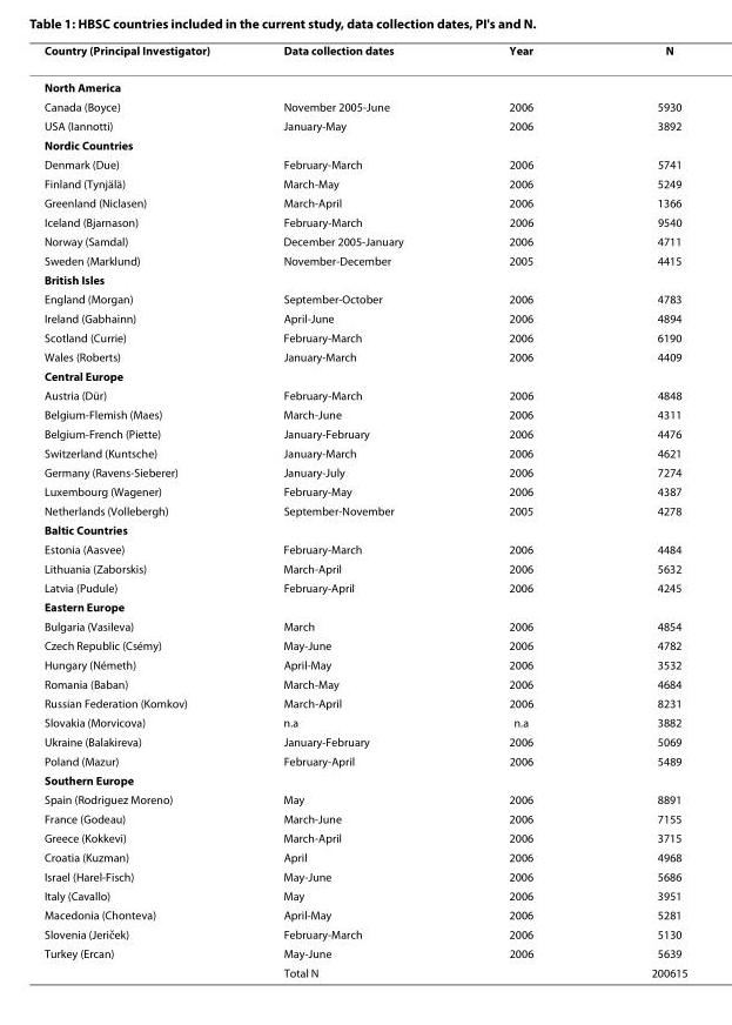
<table><thead><tr><td>Country (Principal Investigator)</td><td>Data collection dates</td><td>Year</td><td>N</td></tr></thead><tbody><tr><td colspan="4">North America</td></tr><tr><td>Canada (Boyce)</td><td>November 2005-June</td><td>2006</td><td>5930</td></tr><tr><td>USA (Iannotti)</td><td>January-May</td><td>2006</td><td>3892</td></tr><tr><td colspan="4">Nordic Countries</td></tr><tr><td>Denmark (Due)</td><td>February-March</td><td>2006</td><td>5741</td></tr><tr><td>Finland (Tynjälä)</td><td>March-May</td><td>2006</td><td>5249</td></tr><tr><td>Greenland (Niclasen)</td><td>March-April</td><td>2006</td><td>1366</td></tr><tr><td>Iceland (Bjarnason)</td><td>February-March</td><td>2006</td><td>9540</td></tr><tr><td>Norway (Samdal)</td><td>December 2005-January</td><td>2006</td><td>4711</td></tr><tr><td>Sweden (Marklund)</td><td>November-December</td><td>2005</td><td>4415</td></tr><tr><td colspan="4">British Isles</td></tr><tr><td>England (Morgan)</td><td>September-October</td><td>2006</td><td>4783</td></tr><tr><td>Ireland (Gabhainn)</td><td>April-June</td><td>2006</td><td>4894</td></tr><tr><td>Scotland (Currie)</td><td>February-March</td><td>2006</td><td>6190</td></tr><tr><td>Wales (Roberts)</td><td>January-March</td><td>2006</td><td>4409</td></tr><tr><td colspan="4">Central Europe</td></tr><tr><td>Austria (Dür)</td><td>February-March</td><td>2006</td><td>4848</td></tr><tr><td>Belgium-Flemish (Maes)</td><td>March-June</td><td>2006</td><td>4311</td></tr><tr><td>Belgium-French (Piette)</td><td>January-February</td><td>2006</td><td>4476</td></tr><tr><td>Switzerland (Kuntsche)</td><td>January-March</td><td>2006</td><td>4621</td></tr><tr><td>Germany (Ravens-Sieberer)</td><td>January-July</td><td>2006</td><td>7274</td></tr><tr><td>Luxembourg (Wagener)</td><td>February-May</td><td>2006</td><td>4387</td></tr><tr><td>Netherlands (Vollebergh)</td><td>September-November</td><td>2005</td><td>4278</td></tr><tr><td colspan="4">Baltic Countries</td></tr><tr><td>Estonia (Aasvee)</td><td>February-March</td><td>2006</td><td>4484</td></tr><tr><td>Lithuania (Zaborskis)</td><td>March-April</td><td>2006</td><td>5632</td></tr><tr><td>Latvia (Pudule)</td><td>February-April</td><td>2006</td><td>4245</td></tr><tr><td colspan="4">Eastern Europe</td></tr><tr><td>Bulgaria (Vasileva)</td><td>March</td><td>2006</td><td>4854</td></tr><tr><td>Czech Republic (Csémy)</td><td>May-June</td><td>2006</td><td>4782</td></tr><tr><td>Hungary (Németh)</td><td>April-May</td><td>2006</td><td>3532</td></tr><tr><td>Romania (Baban)</td><td>March-May</td><td>2006</td><td>4684</td></tr><tr><td>Russian Federation (Komkov)</td><td>March-April</td><td>2006</td><td>8231</td></tr><tr><td>Slovakia (Morvicova)</td><td>n.a</td><td>n.a</td><td>3882</td></tr><tr><td>Ukraine (Balakireva)</td><td>January-February</td><td>2006</td><td>5069</td></tr><tr><td>Poland (Mazur)</td><td>February-April</td><td>2006</td><td>5489</td></tr><tr><td colspan="4">Southern Europe</td></tr><tr><td>Spain (Rodriguez Moreno)</td><td>May</td><td>2006</td><td>8891</td></tr><tr><td>France (Godeau)</td><td>March-June</td><td>2006</td><td>7155</td></tr><tr><td>Greece (Kokkevi)</td><td>March-April</td><td>2006</td><td>3715</td></tr><tr><td>Croatia (Kuzman)</td><td>April</td><td>2006</td><td>4968</td></tr><tr><td>Israel (Harel-Fisch)</td><td>May-June</td><td>2006</td><td>5686</td></tr><tr><td>Italy (Cavallo)</td><td>May</td><td>2006</td><td>3951</td></tr><tr><td>Macedonia (Chonteva)</td><td>April-May</td><td>2006</td><td>5281</td></tr><tr><td>Slovenia (Jeriček)</td><td>February-March</td><td>2006</td><td>5130</td></tr><tr><td rowspan="2">Turkey (Ercan)</td><td>May-June</td><td>2006</td><td>5639</td></tr><tr><td>Total N</td><td></td><td>200615</td></tr></tbody></table>